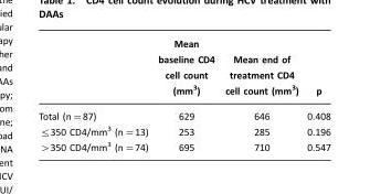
<table><thead><tr><td></td><td>Mean baseline CD4 cell count (mm3)</td><td>Mean end of treatment CD4 cell count (mm3)</td><td>p</td></tr></thead><tbody><tr><td>Total (n=87)</td><td>629</td><td>646</td><td>0.408</td></tr><tr><td>≤350 CD4/mm3 (n=13)</td><td>253</td><td>285</td><td>0.196</td></tr><tr><td>&gt;350 CD4/mm3 (n=74)</td><td>695</td><td>710</td><td>0.547</td></tr></tbody></table>